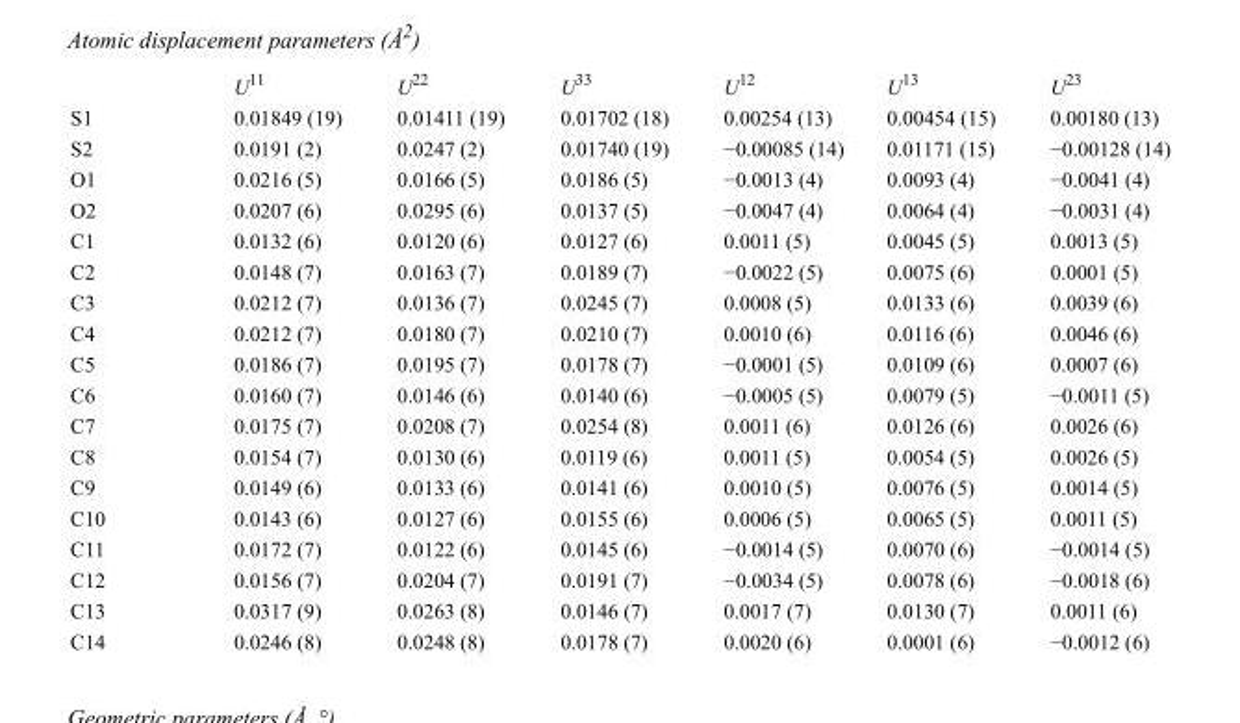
<table><thead><tr><td></td><td>U<sup>11</sup></td><td>U<sup>22</sup></td><td>U<sup>33</sup></td><td>U<sup>12</sup></td><td>U<sup>13</sup></td><td>U<sup>23</sup></td></tr></thead><tbody><tr><td>S1</td><td>0.01849 (19)</td><td>0.01411 (19)</td><td>0.01702 (18)</td><td>0.00254 (13)</td><td>0.00454 (15)</td><td>0.00180 (13)</td></tr><tr><td>S2</td><td>0.0191 (2)</td><td>0.0247 (2)</td><td>0.01740 (19)</td><td>−0.00085 (14)</td><td>0.01171 (15)</td><td>−0.00128 (14)</td></tr><tr><td>O1</td><td>0.0216 (5)</td><td>0.0166 (5)</td><td>0.0186 (5)</td><td>−0.0013 (4)</td><td>0.0093 (4)</td><td>−0.0041 (4)</td></tr><tr><td>O2</td><td>0.0207 (6)</td><td>0.0295 (6)</td><td>0.0137 (5)</td><td>−0.0047 (4)</td><td>0.0064 (4)</td><td>−0.0031 (4)</td></tr><tr><td>C1</td><td>0.0132 (6)</td><td>0.0120 (6)</td><td>0.0127 (6)</td><td>0.0011 (5)</td><td>0.0045 (5)</td><td>0.0013 (5)</td></tr><tr><td>C2</td><td>0.0148 (7)</td><td>0.0163 (7)</td><td>0.0189 (7)</td><td>−0.0022 (5)</td><td>0.0075 (6)</td><td>0.0001 (5)</td></tr><tr><td>C3</td><td>0.0212 (7)</td><td>0.0136 (7)</td><td>0.0245 (7)</td><td>0.0008 (5)</td><td>0.0133 (6)</td><td>0.0039 (6)</td></tr><tr><td>C4</td><td>0.0212 (7)</td><td>0.0180 (7)</td><td>0.0210 (7)</td><td>0.0010 (6)</td><td>0.0116 (6)</td><td>0.0046 (6)</td></tr><tr><td>C5</td><td>0.0186 (7)</td><td>0.0195 (7)</td><td>0.0178 (7)</td><td>−0.0001 (5)</td><td>0.0109 (6)</td><td>0.0007 (6)</td></tr><tr><td>C6</td><td>0.0160 (7)</td><td>0.0146 (6)</td><td>0.0140 (6)</td><td>−0.0005 (5)</td><td>0.0079 (5)</td><td>−0.0011 (5)</td></tr><tr><td>C7</td><td>0.0175 (7)</td><td>0.0208 (7)</td><td>0.0254 (8)</td><td>0.0011 (6)</td><td>0.0126 (6)</td><td>0.0026 (6)</td></tr><tr><td>C8</td><td>0.0154 (7)</td><td>0.0130 (6)</td><td>0.0119 (6)</td><td>0.0011 (5)</td><td>0.0054 (5)</td><td>0.0026 (5)</td></tr><tr><td>C9</td><td>0.0149 (6)</td><td>0.0133 (6)</td><td>0.0141 (6)</td><td>0.0010 (5)</td><td>0.0076 (5)</td><td>0.0014 (5)</td></tr><tr><td>C10</td><td>0.0143 (6)</td><td>0.0127 (6)</td><td>0.0155 (6)</td><td>0.0006 (5)</td><td>0.0065 (5)</td><td>0.0011 (5)</td></tr><tr><td>C11</td><td>0.0172 (7)</td><td>0.0122 (6)</td><td>0.0145 (6)</td><td>−0.0014 (5)</td><td>0.0070 (6)</td><td>−0.0014 (5)</td></tr><tr><td>C12</td><td>0.0156 (7)</td><td>0.0204 (7)</td><td>0.0191 (7)</td><td>−0.0034 (5)</td><td>0.0078 (6)</td><td>−0.0018 (6)</td></tr><tr><td>C13</td><td>0.0317 (9)</td><td>0.0263 (8)</td><td>0.0146 (7)</td><td>0.0017 (7)</td><td>0.0130 (7)</td><td>0.0011 (6)</td></tr><tr><td>C14</td><td>0.0246 (8)</td><td>0.0248 (8)</td><td>0.0178 (7)</td><td>0.0020 (6)</td><td>0.0001 (6)</td><td>−0.0012 (6)</td></tr></tbody></table>